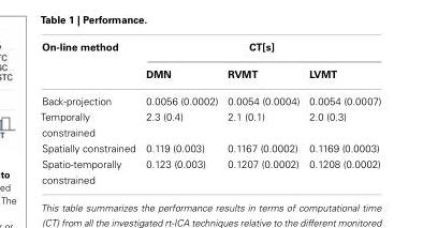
<table><thead><tr><td rowspan="2">On-line method</td><td colspan="3">CT[s]</td></tr><tr><td>DMN</td><td>RVMT</td><td>LVMT</td></tr></thead><tbody><tr><td>Back-projection</td><td>0.0056 (0.0002)</td><td>0.0054 (0.0004)</td><td>0.0054 (0.0007)</td></tr><tr><td>Temporally constrained</td><td>2.3 (0.4)</td><td>2.1 (0.1)</td><td>2.0 (0.3)</td></tr><tr><td>Spatially constrained</td><td>0.119 (0.003)</td><td>0.1167 (0.0002)</td><td>0.1169 (0.0003)</td></tr><tr><td>Spatio-temporally constrained</td><td>0.123 (0.003)</td><td>0.1207 (0.0002)</td><td>0.1208 (0.0002)</td></tr></tbody></table>